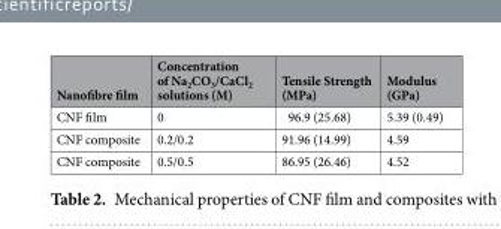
<table><thead><tr><td>Nanofibre film</td><td>Concentration of Na<sub>2</sub>CO<sub>3</sub>/CaCl<sub>2</sub> solutions (M)</td><td>Tensile Strength (MPa)</td><td>Modulus (GPa)</td></tr></thead><tbody><tr><td>CNF film</td><td>0</td><td>96.9 (25.68)</td><td>5.39 (0.49)</td></tr><tr><td>CNF composite</td><td>0.2/0.2</td><td>91.96 (14.99)</td><td>4.59</td></tr><tr><td>CNF composite</td><td>0.5/0.5</td><td>86.95 (26.46)</td><td>4.52</td></tr></tbody></table>